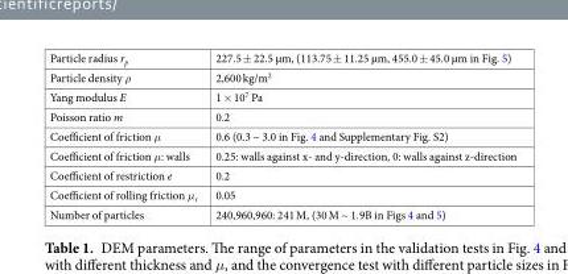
<table><tbody><tr><td>Particle radius r<sub>p</sub></td><td>227.5 ± 22.5 µm, (113.75 ± 11.25 µm, 455.0 ± 45.0 µm in Fig. 5)</td></tr><tr><td>Particle density ρ</td><td>2,600 kg/m<sup>2</sup></td></tr><tr><td>Yang modulus E</td><td>1 × 10<sup>7</sup> Pa</td></tr><tr><td>Poisson ratio m</td><td>0.2</td></tr><tr><td>Coefficient of friction μ</td><td>0.6 (0.3 ~ 3.0 in Fig. 4 and Supplementary Fig. S2)</td></tr><tr><td>Coefficient of friction μ: walls</td><td>0.25: walls against x- and y-direction, 0: walls against z-direction</td></tr><tr><td>Coefficient of restriction e</td><td>0.2</td></tr><tr><td>Coefficient of rolling friction μ<sub>r</sub></td><td>0.05</td></tr><tr><td>Number of particles</td><td>240,960,960: 241 M, (30 M ~ 1.9B in Figs 4 and 5)</td></tr></tbody></table>